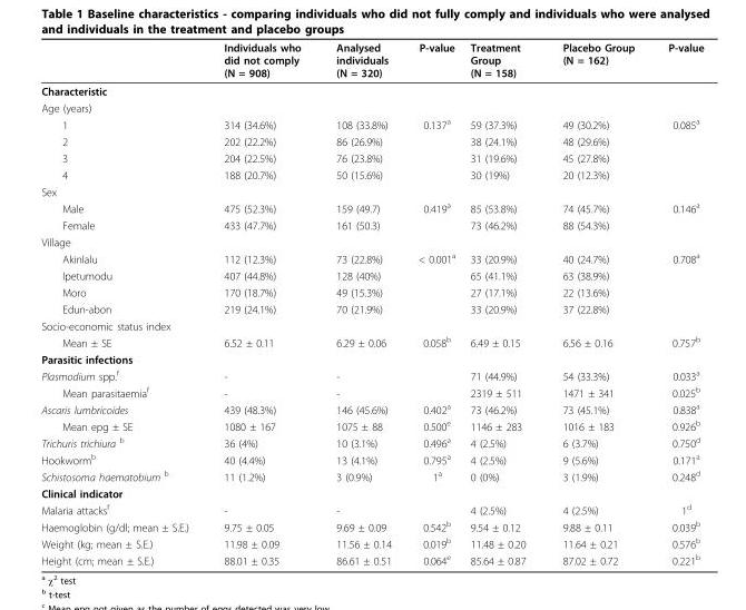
<table><thead><tr><td></td><td>Individuals who did not comply (N = 908)</td><td>Analysed individuals (N = 320)</td><td>P-value</td><td>Treatment Group (N = 158)</td><td>Placebo Group (N = 162)</td><td>P-value</td></tr></thead><tbody><tr><td colspan="7">Characteristic</td></tr><tr><td colspan="7">Age (years)</td></tr><tr><td>1</td><td>314 (34.6%)</td><td>108 (33.8%)</td><td>0.137<sup>a</sup></td><td>59 (37.3%)</td><td>49 (30.2%)</td><td>0.085<sup>a</sup></td></tr><tr><td>2</td><td>202 (22.2%)</td><td>86 (26.9%)</td><td></td><td>38 (24.1%)</td><td>48 (29.6%)</td><td></td></tr><tr><td>3</td><td>204 (22.5%)</td><td>76 (23.8%)</td><td></td><td>31 (19.6%)</td><td>45 (27.8%)</td><td></td></tr><tr><td>4</td><td>188 (20.7%)</td><td>50 (15.6%)</td><td></td><td>30 (19%)</td><td>20 (12.3%)</td><td></td></tr><tr><td colspan="7">Sex</td></tr><tr><td>Male</td><td>475 (52.3%)</td><td>159 (49.7)</td><td>0.419<sup>a</sup></td><td>85 (53.8%)</td><td>74 (45.7%)</td><td>0.146<sup>a</sup></td></tr><tr><td>Female</td><td>433 (47.7%)</td><td>161 (50.3)</td><td></td><td>73 (46.2%)</td><td>88 (54.3%)</td><td></td></tr><tr><td colspan="7">Village</td></tr><tr><td>Akinlalu</td><td>112 (12.3%)</td><td>73 (22.8%)</td><td>&lt; 0.001<sup>a</sup></td><td>33 (20.9%)</td><td>40 (24.7%)</td><td>0.708<sup>a</sup></td></tr><tr><td>Ipetumodu</td><td>407 (44.8%)</td><td>128 (40%)</td><td></td><td>65 (41.1%)</td><td>63 (38.9%)</td><td></td></tr><tr><td>Moro</td><td>170 (18.7%)</td><td>49 (15.3%)</td><td></td><td>27 (17.1%)</td><td>22 (13.6%)</td><td></td></tr><tr><td>Edun-abon</td><td>219 (24.1%)</td><td>70 (21.9%)</td><td></td><td>33 (20.9%)</td><td>37 (22.8%)</td><td></td></tr><tr><td colspan="7">Socio-economic status index</td></tr><tr><td>Mean ± SE</td><td>6.52 ± 0.11</td><td>6.29 ± 0.06</td><td>0.058<sup>b</sup></td><td>6.49 ± 0.15</td><td>6.56 ± 0.16</td><td>0.757<sup>b</sup></td></tr><tr><td colspan="7">Parasitic infections</td></tr><tr><td>Plasmodium spp.<sup>f</sup></td><td>-</td><td>-</td><td></td><td>71 (44.9%)</td><td>54 (33.3%)</td><td>0.033<sup>a</sup></td></tr><tr><td>Mean parasitaemia<sup>f</sup></td><td>-</td><td>-</td><td></td><td>2319 ± 511</td><td>1471 ± 341</td><td>0.025<sup>b</sup></td></tr><tr><td>Ascaris lumbricoides</td><td>439 (48.3%)</td><td>146 (45.6%)</td><td>0.402<sup>a</sup></td><td>73 (46.2%)</td><td>73 (45.1%)</td><td>0.838<sup>a</sup></td></tr><tr><td>Mean epg ± SE</td><td>1080 ± 167</td><td>1075 ± 88</td><td>0.500<sup>e</sup></td><td>1146 ± 283</td><td>1016 ± 183</td><td>0.926<sup>b</sup></td></tr><tr><td>Trichuris trichiura <sup>b</sup></td><td>36 (4%)</td><td>10 (3.1%)</td><td>0.496<sup>a</sup></td><td>4 (2.5%)</td><td>6 (3.7%)</td><td>0.750<sup>d</sup></td></tr><tr><td>Hookworm<sup>b</sup></td><td>40 (4.4%)</td><td>13 (4.1%)</td><td>0.795<sup>a</sup></td><td>4 (2.5%)</td><td>9 (5.6%)</td><td>0.171<sup>a</sup></td></tr><tr><td>Schistosoma haematobium <sup>b</sup></td><td>11 (1.2%)</td><td>3 (0.9%)</td><td>1<sup>a</sup></td><td>0 (0%)</td><td>3 (1.9%)</td><td>0.248<sup>d</sup></td></tr><tr><td colspan="7">Clinical indicator</td></tr><tr><td>Malaria attacks<sup>f</sup></td><td>-</td><td>-</td><td></td><td>4 (2.5%)</td><td>4 (2.5%)</td><td>1<sup>d</sup></td></tr><tr><td>Haemoglobin (g/dl; mean ± S.E.)</td><td>9.75 ± 0.05</td><td>9.69 ± 0.09</td><td>0.542<sup>b</sup></td><td>9.54 ± 0.12</td><td>9.88 ± 0.11</td><td>0.039<sup>b</sup></td></tr><tr><td>Weight (kg; mean ± S.E.)</td><td>11.98 ± 0.09</td><td>11.56 ± 0.14</td><td>0.019<sup>b</sup></td><td>11.48 ± 0.20</td><td>11.64 ± 0.21</td><td>0.576<sup>b</sup></td></tr><tr><td>Height (cm; mean ± S.E.)</td><td>88.01 ± 0.35</td><td>86.61 ± 0.51</td><td>0.064<sup>e</sup></td><td>85.64 ± 0.87</td><td>87.02 ± 0.72</td><td>0.221<sup>b</sup></td></tr></tbody></table>